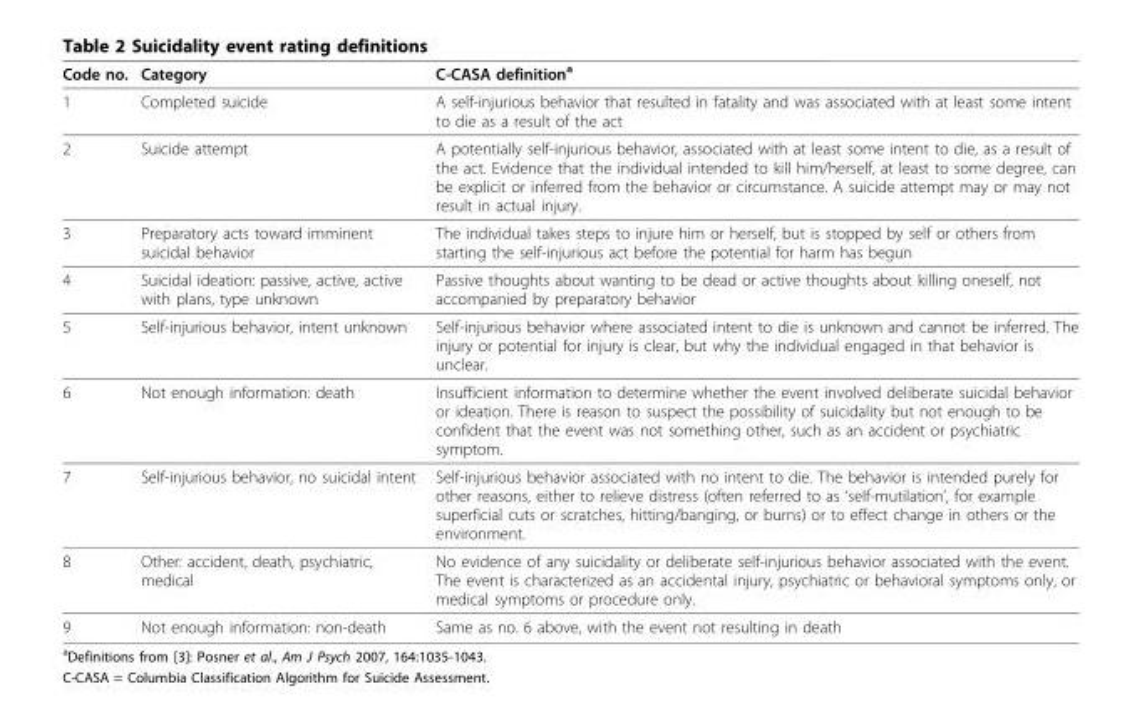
<table><thead><tr><td>Code no.</td><td>Category</td><td>C-CASA definition<sup>a</sup></td></tr></thead><tbody><tr><td>1</td><td>Completed suicide</td><td>A self-injurious behavior that resulted in fatality and was associated with at least some intent to die as a result of the act</td></tr><tr><td>2</td><td>Suicide attempt</td><td>A potentially self-injurious behavior, associated with at least some intent to die, as a result of the act. Evidence that the individual intended to kill him/herself, at least to some degree, can be explicit or inferred from the behavior or circumstance. A suicide attempt may or may not result in actual injury.</td></tr><tr><td>3</td><td>Preparatory acts toward imminent suicidal behavior</td><td>The individual takes steps to injure him or herself, but is stopped by self or others from starting the self-injurious act before the potential for harm has begun</td></tr><tr><td>4</td><td>Suicidal ideation: passive, active, active with plans, type unknown</td><td>Passive thoughts about wanting to be dead or active thoughts about killing oneself, not accompanied by preparatory behavior</td></tr><tr><td>5</td><td>Self-injurious behavior, intent unknown</td><td>Self-injurious behavior where associated intent to die is unknown and cannot be inferred. The injury or potential for injury is clear, but why the individual engaged in that behavior is unclear.</td></tr><tr><td>6</td><td>Not enough information: death</td><td>Insufficient information to determine whether the event involved deliberate suicidal behavior or ideation. There is reason to suspect the possibility of suicidality but not enough to be confident that the event was not something other, such as an accident or psychiatric symptom.</td></tr><tr><td>7</td><td>Self-injurious behavior, no suicidal intent</td><td>Self-injurious behavior associated with no intent to die. The behavior is intended purely for other reasons, either to relieve distress (often referred to as ‘self-mutilation’, for example superficial cuts or scratches, hitting/banging, or burns) or to effect change in others or the environment.</td></tr><tr><td>8</td><td>Other: accident, death, psychiatric, medical</td><td>No evidence of any suicidality or deliberate self-injurious behavior associated with the event. The event is characterized as an accidental injury, psychiatric or behavioral symptoms only, or medical symptoms or procedure only.</td></tr><tr><td>9</td><td>Not enough information: non-death</td><td>Same as no. 6 above, with the event not resulting in death</td></tr></tbody></table>